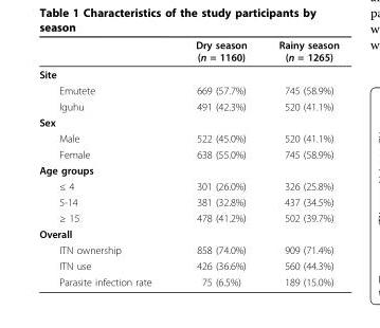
<table><thead><tr><td></td><td>Dry season (n = 1160)</td><td>Rainy season (n = 1265)</td></tr></thead><tbody><tr><td colspan="3">Site</td></tr><tr><td>Emutete</td><td>669 (57.7%)</td><td>745 (58.9%)</td></tr><tr><td>Iguhu</td><td>491 (42.3%)</td><td>520 (41.1%)</td></tr><tr><td colspan="3">Sex</td></tr><tr><td>Male</td><td>522 (45.0%)</td><td>520 (41.1%)</td></tr><tr><td>Female</td><td>638 (55.0%)</td><td>745 (58.9%)</td></tr><tr><td colspan="3">Age groups</td></tr><tr><td>≤ 4</td><td>301 (26.0%)</td><td>326 (25.8%)</td></tr><tr><td>5-14</td><td>381 (32.8%)</td><td>437 (34.5%)</td></tr><tr><td>≥ 15</td><td>478 (41.2%)</td><td>502 (39.7%)</td></tr><tr><td colspan="3">Overall</td></tr><tr><td>ITN ownership</td><td>858 (74.0%)</td><td>909 (71.4%)</td></tr><tr><td>ITN use</td><td>426 (36.6%)</td><td>560 (44.3%)</td></tr><tr><td>Parasite infection rate</td><td>75 (6.5%)</td><td>189 (15.0%)</td></tr></tbody></table>